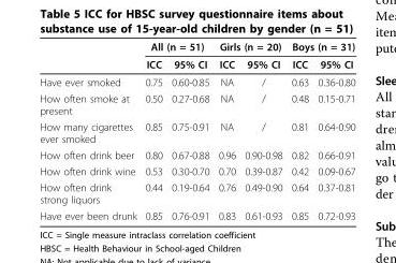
<table><thead><tr><td rowspan="2"></td><td colspan="2">All (n = 51)</td><td colspan="2">Girls (n = 20)</td><td colspan="2">Boys (n = 31)</td></tr><tr><td>ICC</td><td>95% CI</td><td>ICC</td><td>95% CI</td><td>ICC</td><td>95% CI</td></tr></thead><tbody><tr><td>Have ever smoked</td><td>0.75</td><td>0.60-0.85</td><td>NA</td><td>/</td><td>0.63</td><td>0.36-0.80</td></tr><tr><td>How often smoke at present</td><td>0.50</td><td>0.27-0.68</td><td>NA</td><td>/</td><td>0.48</td><td>0.15-0.71</td></tr><tr><td>How many cigarettes ever smoked</td><td>0.85</td><td>0.75-0.91</td><td>NA</td><td>/</td><td>0.81</td><td>0.64-0.90</td></tr><tr><td>How often drink beer</td><td>0.80</td><td>0.67-0.88</td><td>0.96</td><td>0.90-0.98</td><td>0.82</td><td>0.66-0.91</td></tr><tr><td>How often drink wine</td><td>0.53</td><td>0.30-0.70</td><td>0.70</td><td>0.39-0.87</td><td>0.42</td><td>0.09-0.67</td></tr><tr><td>How often drink strong liquors</td><td>0.44</td><td>0.19-0.64</td><td>0.76</td><td>0.49-0.90</td><td>0.64</td><td>0.37-0.81</td></tr><tr><td>Have ever been drunk</td><td>0.85</td><td>0.76-0.91</td><td>0.83</td><td>0.61-0.93</td><td>0.85</td><td>0.72-0.93</td></tr></tbody></table>